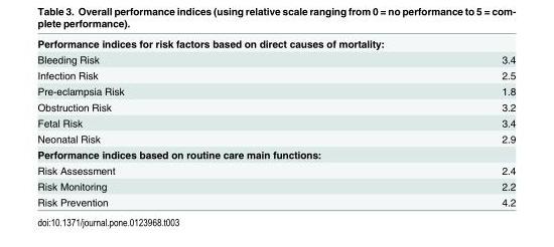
<table><tbody><tr><td colspan="2">Performance indices for risk factors based on direct causes of mortality:</td></tr><tr><td>Bleeding Risk</td><td>3.4</td></tr><tr><td>Infection Risk</td><td>2.5</td></tr><tr><td>Pre-eclampsia Risk</td><td>1.8</td></tr><tr><td>Obstruction Risk</td><td>3.2</td></tr><tr><td>Fetal Risk</td><td>3.4</td></tr><tr><td>Neonatal Risk</td><td>2.9</td></tr><tr><td colspan="2">Performance indices based on routine care main functions:</td></tr><tr><td>Risk Assessment</td><td>2.4</td></tr><tr><td>Risk Monitoring</td><td>2.2</td></tr><tr><td>Risk Prevention</td><td>4.2</td></tr></tbody></table>